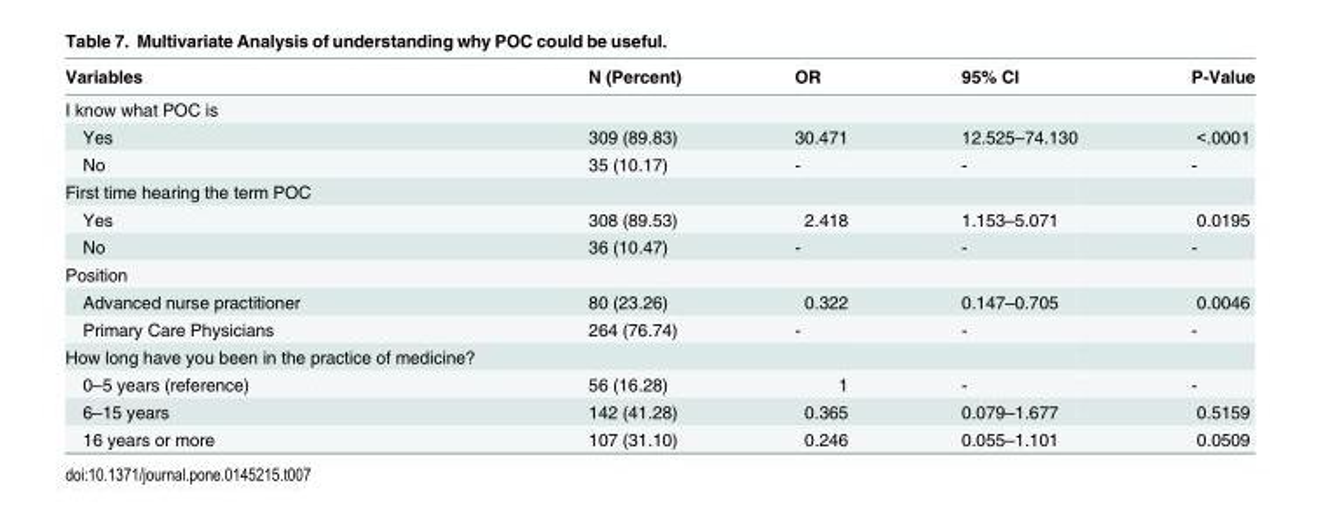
<table><thead><tr><td>Variables</td><td>N (Percent)</td><td>OR</td><td>95% CI</td><td>P-Value</td></tr></thead><tbody><tr><td colspan="5">I know what POC is</td></tr><tr><td>Yes</td><td>309 (89.83)</td><td>30.471</td><td>12.525–74.130</td><td>&lt;.0001</td></tr><tr><td>No</td><td>35 (10.17)</td><td>-</td><td>-</td><td>-</td></tr><tr><td colspan="5">First time hearing the term POC</td></tr><tr><td>Yes</td><td>308 (89.53)</td><td>2.418</td><td>1.153–5.071</td><td>0.0195</td></tr><tr><td>No</td><td>36 (10.47)</td><td>-</td><td>-</td><td>-</td></tr><tr><td colspan="5">Position</td></tr><tr><td>Advanced nurse practitioner</td><td>80 (23.26)</td><td>0.322</td><td>0.147–0.705</td><td>0.0046</td></tr><tr><td>Primary Care Physicians</td><td>264 (76.74)</td><td>-</td><td>-</td><td>-</td></tr><tr><td colspan="5">How long have you been in the practice of medicine?</td></tr><tr><td>0–5 years (reference)</td><td>56 (16.28)</td><td>1</td><td>-</td><td>-</td></tr><tr><td>6–15 years</td><td>142 (41.28)</td><td>0.365</td><td>0.079–1.677</td><td>0.5159</td></tr><tr><td>16 years or more</td><td>107 (31.10)</td><td>0.246</td><td>0.055–1.101</td><td>0.0509</td></tr></tbody></table>